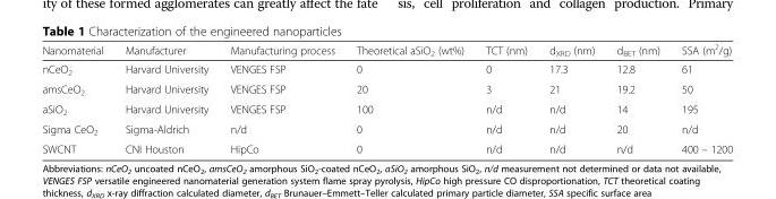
<table><thead><tr><td>Nanomaterial</td><td>Manufacturer</td><td>Manufacturing process</td><td>Theoretical aSiO<sub>2</sub> (wt%)</td><td>TCT (nm)</td><td>d<sub>XRD</sub> (nm)</td><td>d<sub>BET</sub> (nm)</td><td>SSA (m<sup>2</sup>/g)</td></tr></thead><tbody><tr><td>nCeO<sub>2</sub></td><td>Harvard University</td><td>VENGES FSP</td><td>0</td><td>0</td><td>17.3</td><td>12.8</td><td>61</td></tr><tr><td>amsCeO<sub>2</sub></td><td>Harvard University</td><td>VENGES FSP</td><td>20</td><td>3</td><td>21</td><td>19.2</td><td>50</td></tr><tr><td>aSiO<sub>2</sub></td><td>Harvard University</td><td>VENGES FSP</td><td>100</td><td>n/d</td><td>n/d</td><td>14</td><td>195</td></tr><tr><td>Sigma CeO<sub>2</sub></td><td>Sigma-Aldrich</td><td>n/d</td><td>0</td><td>n/d</td><td>n/d</td><td>20</td><td>n/d</td></tr><tr><td>SWCNT</td><td>CNI Houston</td><td>HipCo</td><td>0</td><td>n/d</td><td>n/d</td><td>n/d</td><td>400 – 1200</td></tr></tbody></table>